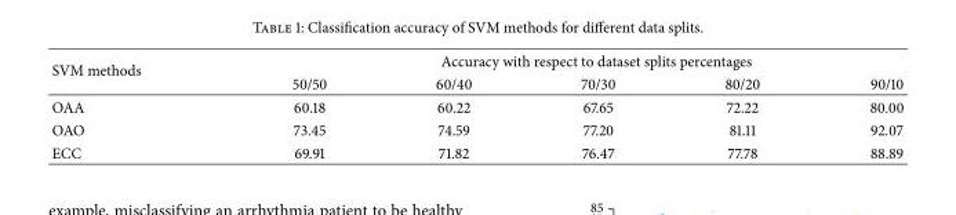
<table><thead><tr><td rowspan="2">SVM methods</td><td colspan="5">Accuracy with respect to dataset splits percentages</td></tr><tr><td>50/50</td><td>60/40</td><td>70/30</td><td>80/20</td><td>90/10</td></tr></thead><tbody><tr><td>OAA</td><td>60.18</td><td>60.22</td><td>67.65</td><td>72.22</td><td>80.00</td></tr><tr><td>OAO</td><td>73.45</td><td>74.59</td><td>77.20</td><td>81.11</td><td>92.07</td></tr><tr><td>ECC</td><td>69.91</td><td>71.82</td><td>76.47</td><td>77.78</td><td>88.89</td></tr></tbody></table>